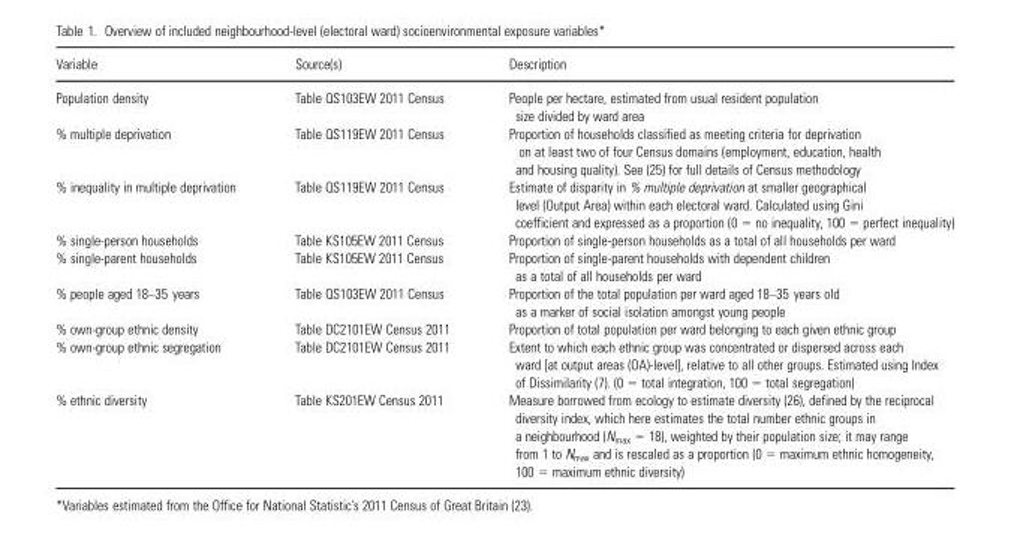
<table><thead><tr><td>Variable</td><td>Source(s)</td><td>Description</td></tr></thead><tbody><tr><td>Population density</td><td>Table QS103EW 2011 Census</td><td>People per hectare, estimated from usual resident population size divided by ward area</td></tr><tr><td>% multiple deprivation</td><td>Table QS119EW 2011 Census</td><td>Proportion of households classified as meeting criteria for deprivation on at least two of four Census domains (employment, education, health and housing quality). See (25) for full details of Census methodology</td></tr><tr><td>% inequality in multiple deprivation</td><td>Table QS119EW 2011 Census</td><td>Estimate of disparity in % multiple deprivation at smaller geographical level (Output Area) within each electoral ward. Calculated using Gini coefficient and expressed as a proportion (0 = no inequality, 100 = perfect inequality)</td></tr><tr><td>% single-person households</td><td>Table KS105EW 2011 Census</td><td>Proportion of single-person households as a total of all households per ward</td></tr><tr><td>% single-parent households</td><td>Table KS105EW 2011 Census</td><td>Proportion of single-parent households with dependent children as a total of all households per ward</td></tr><tr><td>% people aged 18–35 years</td><td>Table QS103EW 2011 Census</td><td>Proportion of the total population per ward aged 18–35 years old as a marker of social isolation amongst young people</td></tr><tr><td>% own-group ethnic density</td><td>Table DC2101EW Census 2011</td><td>Proportion of total population per ward belonging to each given ethnic group</td></tr><tr><td>% own-group ethnic segregation</td><td>Table DC2101EW Census 2011</td><td>Extent to which each ethnic group was concentrated or dispersed across each ward [at output areas (OA)-level], relative to all other groups. Estimated using Index of Dissimilarity (7). (0 = total integration, 100 = total segregation)</td></tr><tr><td>% ethnic diversity</td><td>Table KS201EW Census 2011</td><td>Measure borrowed from ecology to estimate diversity (26), defined by the reciprocal diversity index, which here estimates the total number ethnic groups in a neighbourhood (Nmax = 18), weighted by their population size; it may range from 1 to Nmax and is rescaled as a proportion (0 = maximum ethnic homogeneity, 100 = maximum ethnic diversity)</td></tr></tbody></table>